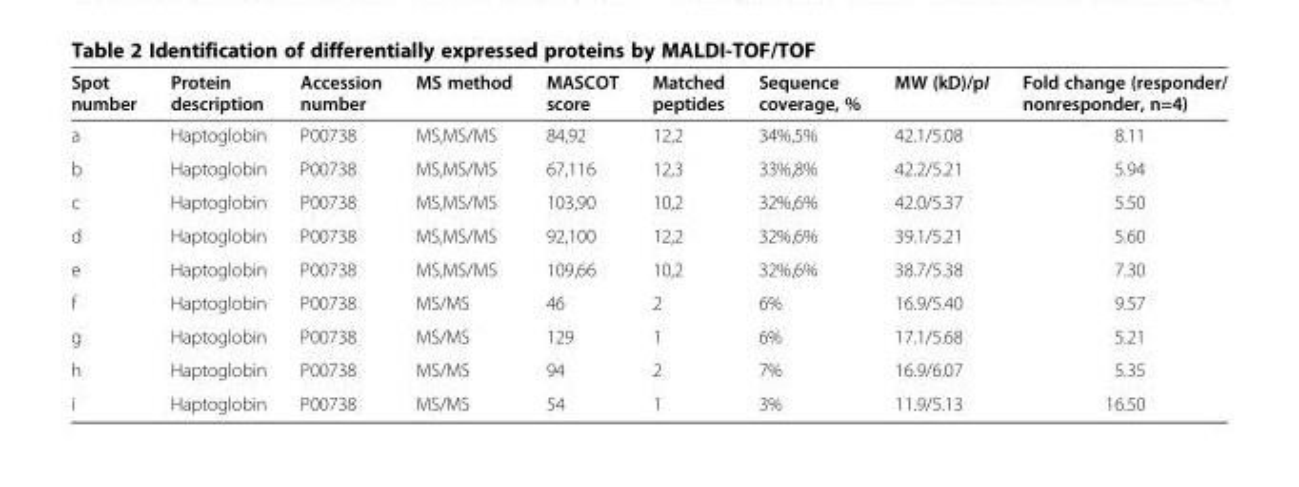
<table><thead><tr><td>Spot number</td><td>Protein description</td><td>Accession number</td><td>MS method</td><td>MASCOT score</td><td>Matched peptides</td><td>Sequence coverage, %</td><td>MW (kD)/pI</td><td>Fold change (responder/ nonresponder, n=4)</td></tr></thead><tbody><tr><td>a</td><td>Haptoglobin</td><td>P00738</td><td>MS,MS/MS</td><td>84,92</td><td>12,2</td><td>34%,5%</td><td>42.1/5.08</td><td>8.11</td></tr><tr><td>b</td><td>Haptoglobin</td><td>P00738</td><td>MS,MS/MS</td><td>67,116</td><td>12,3</td><td>33%,8%</td><td>42.2/5.21</td><td>5.94</td></tr><tr><td>c</td><td>Haptoglobin</td><td>P00738</td><td>MS,MS/MS</td><td>103,90</td><td>10,2</td><td>32%,6%</td><td>42.0/5.37</td><td>5.50</td></tr><tr><td>d</td><td>Haptoglobin</td><td>P00738</td><td>MS,MS/MS</td><td>92,100</td><td>12,2</td><td>32%,6%</td><td>39.1/5.21</td><td>5.60</td></tr><tr><td>e</td><td>Haptoglobin</td><td>P00738</td><td>MS,MS/MS</td><td>109,66</td><td>10,2</td><td>32%,6%</td><td>38.7/5.38</td><td>7.30</td></tr><tr><td>f</td><td>Haptoglobin</td><td>P00738</td><td>MS/MS</td><td>46</td><td>2</td><td>6%</td><td>16.9/5.40</td><td>9.57</td></tr><tr><td>g</td><td>Haptoglobin</td><td>P00738</td><td>MS/MS</td><td>129</td><td>1</td><td>6%</td><td>17.1/5.68</td><td>5.21</td></tr><tr><td>h</td><td>Haptoglobin</td><td>P00738</td><td>MS/MS</td><td>94</td><td>2</td><td>7%</td><td>16.9/6.07</td><td>5.35</td></tr><tr><td>i</td><td>Haptoglobin</td><td>P00738</td><td>MS/MS</td><td>54</td><td>1</td><td>3%</td><td>11.9/5.13</td><td>16.50</td></tr></tbody></table>